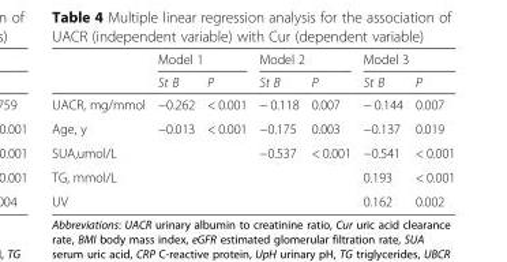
<table><thead><tr><td rowspan="2"></td><td colspan="2">Model 1</td><td colspan="2">Model 2</td><td colspan="2">Model 3</td></tr><tr><td>St B</td><td>P</td><td>St B</td><td>P</td><td>St B</td><td>P</td></tr></thead><tbody><tr><td>UACR, mg/mmol</td><td>−0.262</td><td>&lt; 0.001</td><td>− 0.118</td><td>0.007</td><td>− 0.144</td><td>0.007</td></tr><tr><td>Age, y</td><td>−0.013</td><td>&lt; 0.001</td><td>−0.175</td><td>0.003</td><td>−0.137</td><td>0.019</td></tr><tr><td>SUA,umol/L</td><td></td><td></td><td>−0.537</td><td>&lt; 0.001</td><td>−0.541</td><td>&lt; 0.001</td></tr><tr><td>TG, mmol/L</td><td></td><td></td><td></td><td></td><td>0.193</td><td>&lt; 0.001</td></tr><tr><td>UV</td><td></td><td></td><td></td><td></td><td>0.162</td><td>0.002</td></tr></tbody></table>